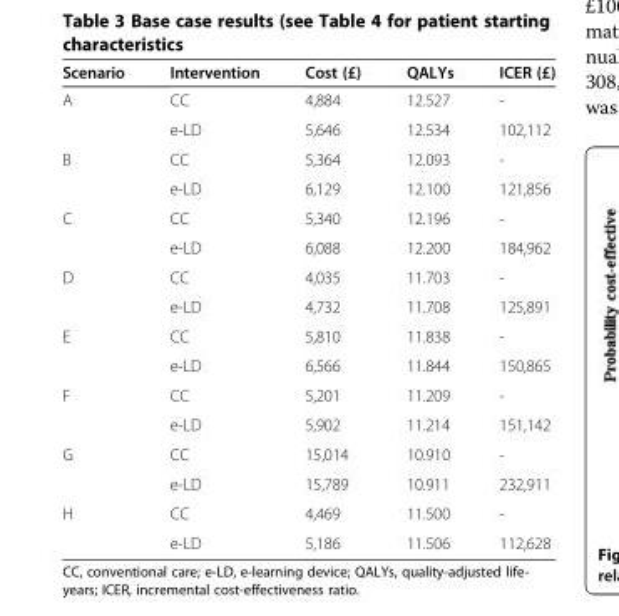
<table><thead><tr><td>Scenario</td><td>Intervention</td><td>Cost (£)</td><td>QALYs</td><td>ICER (£)</td></tr></thead><tbody><tr><td rowspan="2">A</td><td>CC</td><td>4,884</td><td>12.527</td><td>-</td></tr><tr><td>e-LD</td><td>5,646</td><td>12.534</td><td>102,112</td></tr><tr><td rowspan="2">B</td><td>CC</td><td>5,364</td><td>12.093</td><td>-</td></tr><tr><td>e-LD</td><td>6,129</td><td>12.100</td><td>121,856</td></tr><tr><td rowspan="2">C</td><td>CC</td><td>5,340</td><td>12.196</td><td>-</td></tr><tr><td>e-LD</td><td>6,088</td><td>12.200</td><td>184,962</td></tr><tr><td rowspan="2">D</td><td>CC</td><td>4,035</td><td>11.703</td><td>-</td></tr><tr><td>e-LD</td><td>4,732</td><td>11.708</td><td>125,891</td></tr><tr><td rowspan="2">E</td><td>CC</td><td>5,810</td><td>11.838</td><td>-</td></tr><tr><td>e-LD</td><td>6,566</td><td>11.844</td><td>150,865</td></tr><tr><td rowspan="2">F</td><td>CC</td><td>5,201</td><td>11.209</td><td>-</td></tr><tr><td>e-LD</td><td>5,902</td><td>11.214</td><td>151,142</td></tr><tr><td rowspan="2">G</td><td>CC</td><td>15,014</td><td>10.910</td><td>-</td></tr><tr><td>e-LD</td><td>15,789</td><td>10.911</td><td>232,911</td></tr><tr><td rowspan="2">H</td><td>CC</td><td>4,469</td><td>11.500</td><td>-</td></tr><tr><td>e-LD</td><td>5,186</td><td>11.506</td><td>112,628</td></tr></tbody></table>